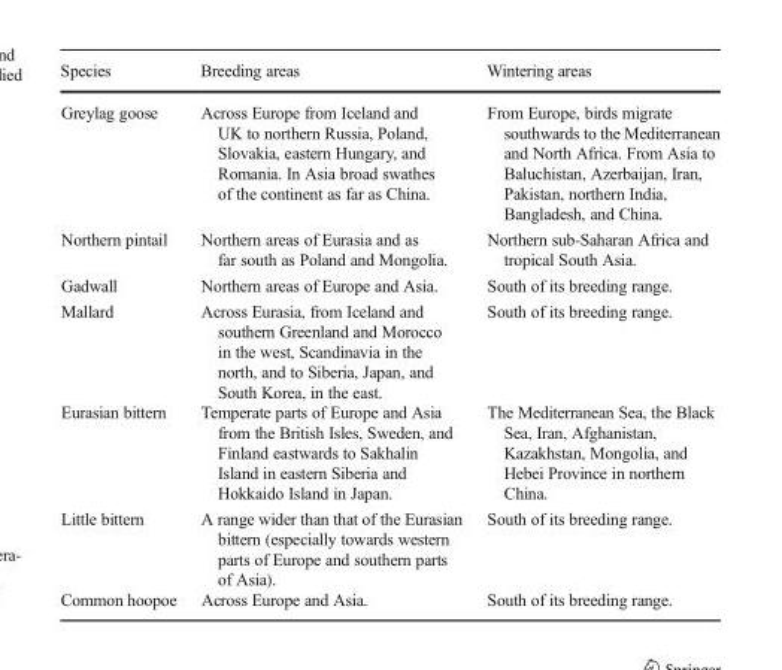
<table><thead><tr><td>Species</td><td>Breeding areas</td><td>Wintering areas</td></tr></thead><tbody><tr><td>Greylag goose</td><td>Across Europe from Iceland and UK to northern Russia, Poland, Slovakia, eastern Hungary, and Romania. In Asia broad swathes of the continent as far as China.</td><td>From Europe, birds migrate southwards to the Mediterranean and North Africa. From Asia to Baluchistan, Azerbaijan, Iran, Pakistan, northern India, Bangladesh, and China.</td></tr><tr><td>Northern pintail</td><td>Northern areas of Eurasia and as far south as Poland and Mongolia.</td><td>Northern sub-Saharan Africa and tropical South Asia.</td></tr><tr><td>Gadwall</td><td>Northern areas of Europe and Asia.</td><td>South of its breeding range.</td></tr><tr><td>Mallard</td><td>Across Eurasia, from Iceland and southern Greenland and Morocco in the west, Scandinavia in the north, and to Siberia, Japan, and South Korea, in the east.</td><td>South of its breeding range.</td></tr><tr><td>Eurasian bittern</td><td>Temperate parts of Europe and Asia from the British Isles, Sweden, and Finland eastwards to Sakhalin Island in eastern Siberia and Hokkaido Island in Japan.</td><td>The Mediterranean Sea, the Black Sea, Iran, Afghanistan, Kazakhstan, Mongolia, and Hebei Province in northern China.</td></tr><tr><td>Little bittern</td><td>A range wider than that of the Eurasian bittern (especially towards western parts of Europe and southern parts of Asia).</td><td>South of its breeding range.</td></tr><tr><td>Common hoopoe</td><td>Across Europe and Asia.</td><td>South of its breeding range.</td></tr></tbody></table>